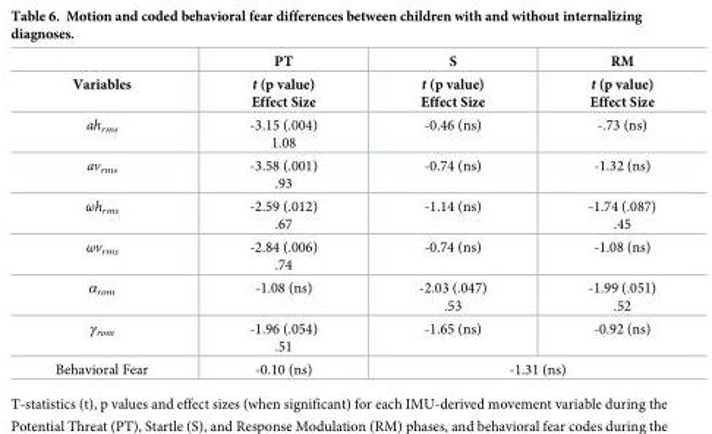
<table><thead><tr><td rowspan="2">Variables</td><td rowspan="2">PT t (p value) Effect Size</td><td rowspan="2">S t (p value) Effect Size</td><td rowspan="2">RM t (p value) Effect Size</td></tr><tr></tr></thead><tbody><tr><td>ah<sub>rms</sub></td><td>-3.15 (.004) 1.08</td><td>-0.46 (ns)</td><td>-.73 (ns)</td></tr><tr><td>av<sub>rms</sub></td><td>-3.58 (.001) .93</td><td>-0.74 (ns)</td><td>-1.32 (ns)</td></tr><tr><td>ωh<sub>rms</sub></td><td>-2.59 (.012) .67</td><td>-1.14 (ns)</td><td>-1.74 (.087) .45</td></tr><tr><td>ωv<sub>rms</sub></td><td>-2.84 (.006) .74</td><td>-0.74 (ns)</td><td>-1.08 (ns)</td></tr><tr><td>α<sub>rom</sub></td><td>-1.08 (ns)</td><td>-2.03 (.047) .53</td><td>-1.99 (.051) .52</td></tr><tr><td>γ<sub>rom</sub></td><td>-1.96 (.054) .51</td><td>-1.65 (ns)</td><td>-0.92 (ns)</td></tr><tr><td>Behavioral Fear</td><td>-0.10 (ns)</td><td colspan="2">-1.31 (ns)</td></tr></tbody></table>